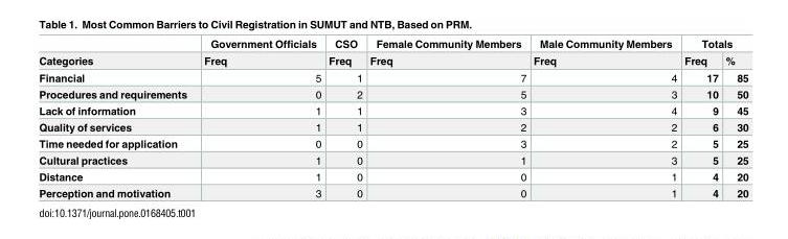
<table><thead><tr><td rowspan="2">Categories</td><td rowspan="2">Government Officials Freq</td><td rowspan="2">CSO Freq</td><td rowspan="2">Female Community Members Freq</td><td rowspan="2">Male Community Members Freq</td><td colspan="2">Totals</td></tr><tr><td>Freq</td><td>%</td></tr></thead><tbody><tr><td>Financial</td><td>5</td><td>1</td><td>7</td><td>4</td><td>17</td><td>85</td></tr><tr><td>Procedures and requirements</td><td>0</td><td>2</td><td>5</td><td>3</td><td>10</td><td>50</td></tr><tr><td>Lack of information</td><td>1</td><td>1</td><td>3</td><td>4</td><td>9</td><td>45</td></tr><tr><td>Quality of services</td><td>1</td><td>1</td><td>2</td><td>2</td><td>6</td><td>30</td></tr><tr><td>Time needed for application</td><td>0</td><td>0</td><td>3</td><td>2</td><td>5</td><td>25</td></tr><tr><td>Cultural practices</td><td>1</td><td>0</td><td>1</td><td>3</td><td>5</td><td>25</td></tr><tr><td>Distance</td><td>1</td><td>0</td><td>0</td><td>1</td><td>4</td><td>20</td></tr><tr><td>Perception and motivation</td><td>3</td><td>0</td><td>0</td><td>1</td><td>4</td><td>20</td></tr></tbody></table>